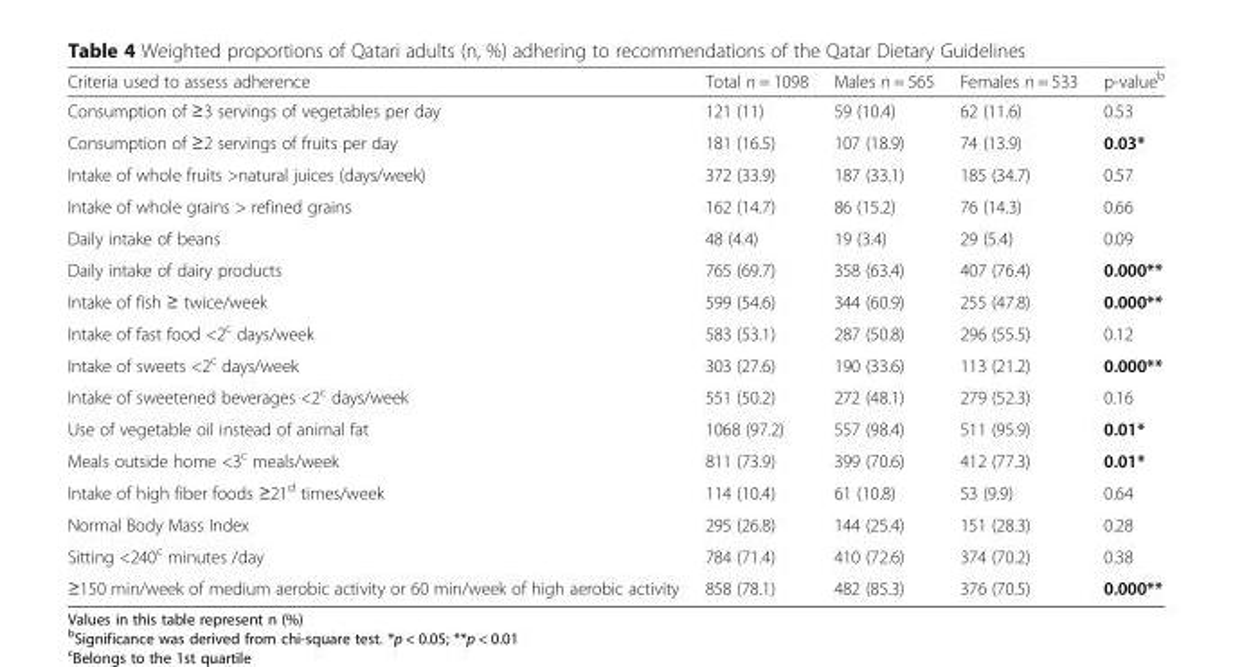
<table><thead><tr><td>Criteria used to assess adherence</td><td>Total n = 1098</td><td>Males n = 565</td><td>Females n = 533</td><td>p-value<sup>b</sup></td></tr></thead><tbody><tr><td>Consumption of ≥3 servings of vegetables per day</td><td>121 (11)</td><td>59 (10.4)</td><td>62 (11.6)</td><td>0.53</td></tr><tr><td>Consumption of ≥2 servings of fruits per day</td><td>181 (16.5)</td><td>107 (18.9)</td><td>74 (13.9)</td><td>0.03*</td></tr><tr><td>Intake of whole fruits &gt;natural juices (days/week)</td><td>372 (33.9)</td><td>187 (33.1)</td><td>185 (34.7)</td><td>0.57</td></tr><tr><td>Intake of whole grains &gt; refined grains</td><td>162 (14.7)</td><td>86 (15.2)</td><td>76 (14.3)</td><td>0.66</td></tr><tr><td>Daily intake of beans</td><td>48 (4.4)</td><td>19 (3.4)</td><td>29 (5.4)</td><td>0.09</td></tr><tr><td>Daily intake of dairy products</td><td>765 (69.7)</td><td>358 (63.4)</td><td>407 (76.4)</td><td>0.000**</td></tr><tr><td>Intake of fish ≥ twice/week</td><td>599 (54.6)</td><td>344 (60.9)</td><td>255 (47.8)</td><td>0.000**</td></tr><tr><td>Intake of fast food &lt;2<sup>c</sup> days/week</td><td>583 (53.1)</td><td>287 (50.8)</td><td>296 (55.5)</td><td>0.12</td></tr><tr><td>Intake of sweets &lt;2<sup>c</sup> days/week</td><td>303 (27.6)</td><td>190 (33.6)</td><td>113 (21.2)</td><td>0.000**</td></tr><tr><td>Intake of sweetened beverages &lt;2<sup>c</sup> days/week</td><td>551 (50.2)</td><td>272 (48.1)</td><td>279 (52.3)</td><td>0.16</td></tr><tr><td>Use of vegetable oil instead of animal fat</td><td>1068 (97.2)</td><td>557 (98.4)</td><td>511 (95.9)</td><td>0.01*</td></tr><tr><td>Meals outside home &lt;3<sup>c</sup> meals/week</td><td>811 (73.9)</td><td>399 (70.6)</td><td>412 (77.3)</td><td>0.01*</td></tr><tr><td>Intake of high fiber foods ≥21<sup>d</sup> times/week</td><td>114 (10.4)</td><td>61 (10.8)</td><td>53 (9.9)</td><td>0.64</td></tr><tr><td>Normal Body Mass Index</td><td>295 (26.8)</td><td>144 (25.4)</td><td>151 (28.3)</td><td>0.28</td></tr><tr><td>Sitting &lt;240<sup>c</sup> minutes /day</td><td>784 (71.4)</td><td>410 (72.6)</td><td>374 (70.2)</td><td>0.38</td></tr><tr><td>≥150 min/week of medium aerobic activity or 60 min/week of high aerobic activity</td><td>858 (78.1)</td><td>482 (85.3)</td><td>376 (70.5)</td><td>0.000**</td></tr></tbody></table>